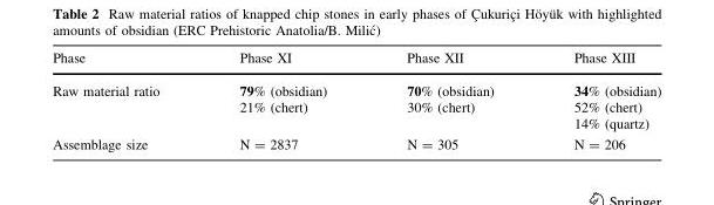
<table><thead><tr><td>Phase</td><td>Phase XI</td><td>Phase XII</td><td>Phase XIII</td></tr></thead><tbody><tr><td>Raw material ratio</td><td>79% (obsidian) 21% (chert)</td><td>70% (obsidian) 30% (chert)</td><td>34% (obsidian) 52% (chert) 14% (quartz)</td></tr><tr><td>Assemblage size</td><td>N = 2837</td><td>N = 305</td><td>N = 206</td></tr></tbody></table>